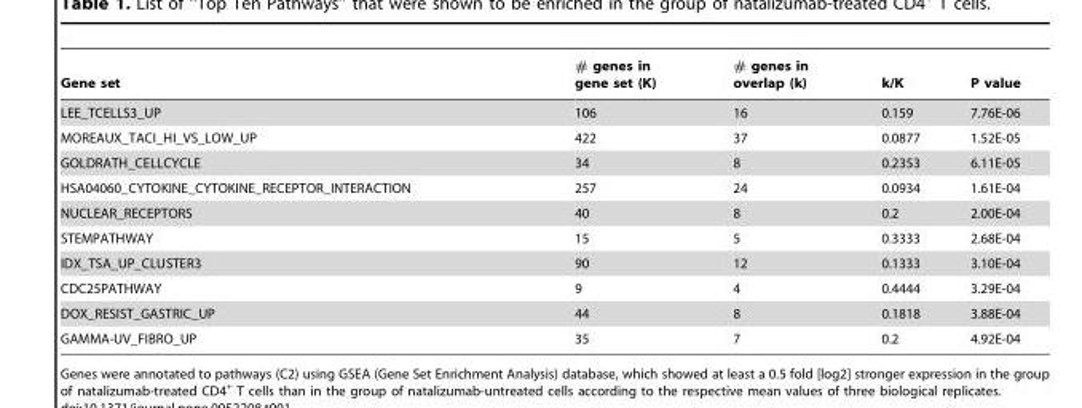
<table><thead><tr><td>Gene set</td><td># genes in gene set (K)</td><td># genes in overlap (k)</td><td>k/K</td><td>P value</td></tr></thead><tbody><tr><td>LEE_TCELLS3_UP</td><td>106</td><td>16</td><td>0.159</td><td>7.76E-06</td></tr><tr><td>MOREAUX_TACI_HI_VS_LOW_UP</td><td>422</td><td>37</td><td>0.0877</td><td>1.52E-05</td></tr><tr><td>GOLDRATH_CELLCYCLE</td><td>34</td><td>8</td><td>0.2353</td><td>6.11E-05</td></tr><tr><td>HSA04060_CYTOKINE_CYTOKINE_RECEPTOR_INTERACTION</td><td>257</td><td>24</td><td>0.0934</td><td>1.61E-04</td></tr><tr><td>NUCLEAR_RECEPTORS</td><td>40</td><td>8</td><td>0.2</td><td>2.00E-04</td></tr><tr><td>STEMPATHWAY</td><td>15</td><td>5</td><td>0.3333</td><td>2.68E-04</td></tr><tr><td>IDX_TSA_UP_CLUSTER3</td><td>90</td><td>12</td><td>0.1333</td><td>3.10E-04</td></tr><tr><td>CDC25PATHWAY</td><td>9</td><td>4</td><td>0.4444</td><td>3.29E-04</td></tr><tr><td>DOX_RESIST_GASTRIC_UP</td><td>44</td><td>8</td><td>0.1818</td><td>3.88E-04</td></tr><tr><td>GAMMA-UV_FIBRO_UP</td><td>35</td><td>7</td><td>0.2</td><td>4.92E-04</td></tr></tbody></table>